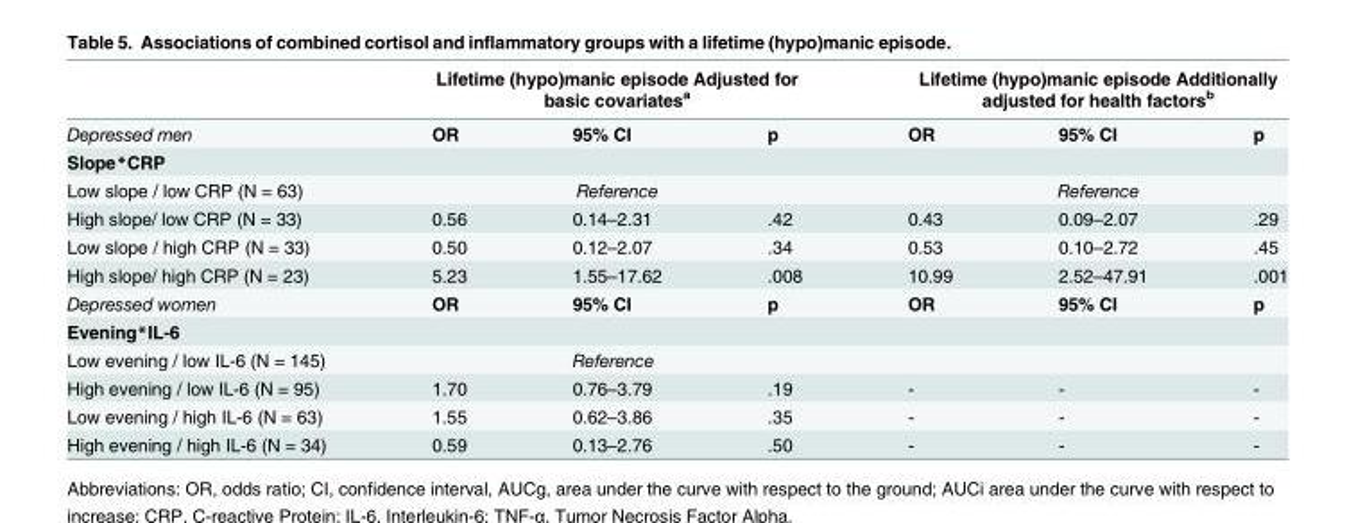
<table><thead><tr><td rowspan="2">Depressed men</td><td colspan="3">Lifetime (hypo)manic episode Adjusted for basic covariates<sup>a</sup></td><td colspan="3">Lifetime (hypo)manic episode Additionally adjusted for health factors<sup>b</sup></td></tr><tr><td>OR</td><td>95% CI</td><td>p</td><td>OR</td><td>95% CI</td><td>p</td></tr></thead><tbody><tr><td colspan="7">Slope*CRP</td></tr><tr><td>Low slope / low CRP (N = 63)</td><td colspan="3">Reference</td><td colspan="3">Reference</td></tr><tr><td>High slope/ low CRP (N = 33)</td><td>0.56</td><td>0.14–2.31</td><td>.42</td><td>0.43</td><td>0.09–2.07</td><td>.29</td></tr><tr><td>Low slope / high CRP (N = 33)</td><td>0.50</td><td>0.12–2.07</td><td>.34</td><td>0.53</td><td>0.10–2.72</td><td>.45</td></tr><tr><td>High slope/ high CRP (N = 23)</td><td>5.23</td><td>1.55–17.62</td><td>.008</td><td>10.99</td><td>2.52–47.91</td><td>.001</td></tr><tr><td>Depressed women</td><td>OR</td><td>95% CI</td><td>p</td><td>OR</td><td>95% CI</td><td>p</td></tr><tr><td colspan="7">Evening*IL-6</td></tr><tr><td>Low evening / low IL-6 (N = 145)</td><td></td><td>Reference</td><td></td><td></td><td></td><td></td></tr><tr><td>High evening / low IL-6 (N = 95)</td><td>1.70</td><td>0.76–3.79</td><td>.19</td><td>-</td><td>-</td><td>-</td></tr><tr><td>Low evening / high IL-6 (N = 63)</td><td>1.55</td><td>0.62–3.86</td><td>.35</td><td>-</td><td>-</td><td>-</td></tr><tr><td>High evening / high IL-6 (N = 34)</td><td>0.59</td><td>0.13–2.76</td><td>.50</td><td>-</td><td>-</td><td>-</td></tr></tbody></table>